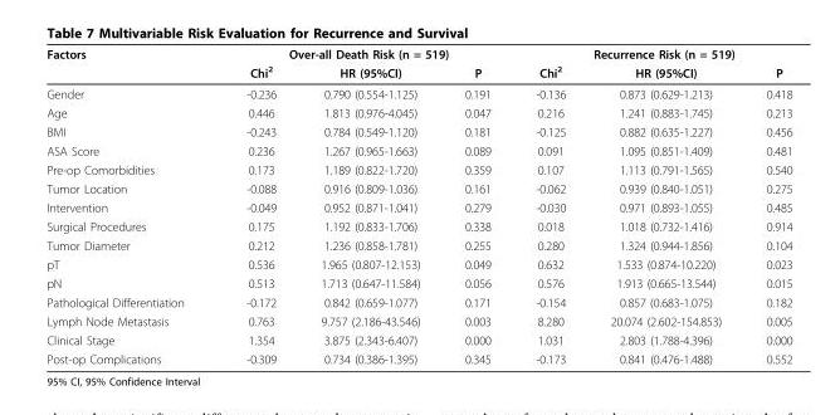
<table><thead><tr><td rowspan="2">Factors</td><td colspan="3">Over-all Death Risk (n = 519)</td><td colspan="3">Recurrence Risk (n = 519)</td></tr><tr><td>Chi<sup>2</sup></td><td>HR (95%CI)</td><td>P</td><td>Chi<sup>2</sup></td><td>HR (95%CI)</td><td>P</td></tr></thead><tbody><tr><td>Gender</td><td>-0.236</td><td>0.790 (0.554-1.125)</td><td>0.191</td><td>-0.136</td><td>0.873 (0.629-1.213)</td><td>0.418</td></tr><tr><td>Age</td><td>0.446</td><td>1.813 (0.976-4.045)</td><td>0.047</td><td>0.216</td><td>1.241 (0.883-1.745)</td><td>0.213</td></tr><tr><td>BMI</td><td>-0.243</td><td>0.784 (0.549-1.120)</td><td>0.181</td><td>-0.125</td><td>0.882 (0.635-1.227)</td><td>0.456</td></tr><tr><td>ASA Score</td><td>0.236</td><td>1.267 (0.965-1.663)</td><td>0.089</td><td>0.091</td><td>1.095 (0.851-1.409)</td><td>0.481</td></tr><tr><td>Pre-op Comorbidities</td><td>0.173</td><td>1.189 (0.822-1.720)</td><td>0.359</td><td>0.107</td><td>1.113 (0.791-1.565)</td><td>0.540</td></tr><tr><td>Tumor Location</td><td>-0.088</td><td>0.916 (0.809-1.036)</td><td>0.161</td><td>-0.062</td><td>0.939 (0.840-1.051)</td><td>0.275</td></tr><tr><td>Intervention</td><td>-0.049</td><td>0.952 (0.871-1.041)</td><td>0.279</td><td>-0.030</td><td>0.971 (0.893-1.055)</td><td>0.485</td></tr><tr><td>Surgical Procedures</td><td>0.175</td><td>1.192 (0.833-1.706)</td><td>0.338</td><td>0.018</td><td>1.018 (0.732-1.416)</td><td>0.914</td></tr><tr><td>Tumor Diameter</td><td>0.212</td><td>1.236 (0.858-1.781)</td><td>0.255</td><td>0.280</td><td>1.324 (0.944-1.856)</td><td>0.104</td></tr><tr><td>pT</td><td>0.536</td><td>1.965 (0.807-12.153)</td><td>0.049</td><td>0.632</td><td>1.533 (0.874-10.220)</td><td>0.023</td></tr><tr><td>pN</td><td>0.513</td><td>1.713 (0.647-11.584)</td><td>0.056</td><td>0.576</td><td>1.913 (0.665-13.544)</td><td>0.015</td></tr><tr><td>Pathological Differentiation</td><td>-0.172</td><td>0.842 (0.659-1.077)</td><td>0.171</td><td>-0.154</td><td>0.857 (0.683-1.075)</td><td>0.182</td></tr><tr><td>Lymph Node Metastasis</td><td>0.763</td><td>9.757 (2.186-43.546)</td><td>0.003</td><td>8.280</td><td>20.074 (2.602-154.853)</td><td>0.005</td></tr><tr><td>Clinical Stage</td><td>1.354</td><td>3.875 (2.343-6.407)</td><td>0.000</td><td>1.031</td><td>2.803 (1.788-4.396)</td><td>0.000</td></tr><tr><td>Post-op Complications</td><td>-0.309</td><td>0.734 (0.386-1.395)</td><td>0.345</td><td>-0.173</td><td>0.841 (0.476-1.488)</td><td>0.552</td></tr></tbody></table>